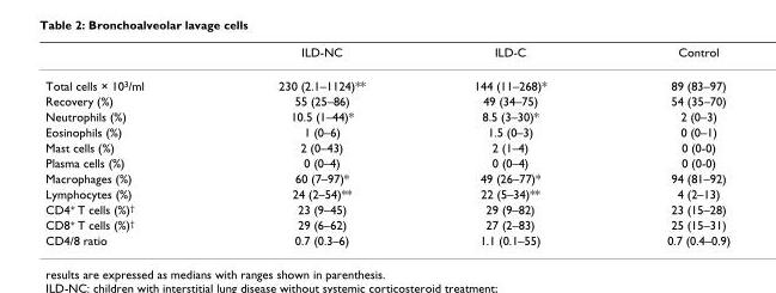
<table><thead><tr><td></td><td>ILD-NC</td><td>ILD-C</td><td>Control</td></tr></thead><tbody><tr><td>Total cells × 10<sup>3</sup>/ml</td><td>230 (2.1–1124)**</td><td>144 (11–268)*</td><td>89 (83–97)</td></tr><tr><td>Recovery (%)</td><td>55 (25–86)</td><td>49 (34–75)</td><td>54 (35–70)</td></tr><tr><td>Neutrophils (%)</td><td>10.5 (1–44)*</td><td>8.5 (3–30)*</td><td>2 (0–3)</td></tr><tr><td>Eosinophils (%)</td><td>1 (0–6)</td><td>1.5 (0–3)</td><td>0 (0–1)</td></tr><tr><td>Mast cells (%)</td><td>2 (0–43)</td><td>2 (1–4)</td><td>0 (0-0)</td></tr><tr><td>Plasma cells (%)</td><td>0 (0–4)</td><td>0 (0–4)</td><td>0 (0-0)</td></tr><tr><td>Macrophages (%)</td><td>60 (7–97)*</td><td>49 (26–77)*</td><td>94 (81–92)</td></tr><tr><td>Lymphocytes (%)</td><td>24 (2–54)**</td><td>22 (5–34)**</td><td>4 (2–13)</td></tr><tr><td>CD4<sup>+</sup> T cells (%)<sup>†</sup></td><td>23 (9–45)</td><td>29 (9–82)</td><td>23 (15–28)</td></tr><tr><td>CD8<sup>+</sup> T cells (%)<sup>†</sup></td><td>29 (6–62)</td><td>27 (2–83)</td><td>25 (15–31)</td></tr><tr><td>CD4/8 ratio</td><td>0.7 (0.3–6)</td><td>1.1 (0.1–55)</td><td>0.7 (0.4–0.9)</td></tr></tbody></table>